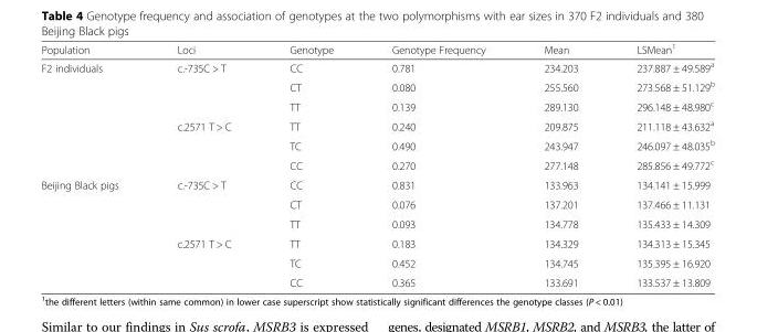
<table><thead><tr><td>Population</td><td>Loci</td><td>Genotype</td><td>Genotype Frequency</td><td>Mean</td><td>LSMean<sup>1</sup></td></tr></thead><tbody><tr><td rowspan="6">F2 individuals</td><td rowspan="3">c.-735C &gt; T</td><td>CC</td><td>0.781</td><td>234.203</td><td>237.887 ± 49.589<sup>a</sup></td></tr><tr><td>CT</td><td>0.080</td><td>255.560</td><td>273.568 ± 51.129<sup>b</sup></td></tr><tr><td>TT</td><td>0.139</td><td>289.130</td><td>296.148 ± 48.980<sup>c</sup></td></tr><tr><td rowspan="3">c.2571 T &gt; C</td><td>TT</td><td>0.240</td><td>209.875</td><td>211.118 ± 43.632<sup>a</sup></td></tr><tr><td>TC</td><td>0.490</td><td>243.947</td><td>246.097 ± 48.035<sup>b</sup></td></tr><tr><td>CC</td><td>0.270</td><td>277.148</td><td>285.856 ± 49.772<sup>c</sup></td></tr><tr><td rowspan="6">Beijing Black pigs</td><td rowspan="3">c.-735C &gt; T</td><td>CC</td><td>0.831</td><td>133.963</td><td>134.141 ± 15.999</td></tr><tr><td>CT</td><td>0.076</td><td>137.201</td><td>137.466 ± 11.131</td></tr><tr><td>TT</td><td>0.093</td><td>134.778</td><td>135.433 ± 14.309</td></tr><tr><td rowspan="3">c.2571 T &gt; C</td><td>TT</td><td>0.183</td><td>134.329</td><td>134.313 ± 15.345</td></tr><tr><td>TC</td><td>0.452</td><td>134.745</td><td>135.395 ± 16.920</td></tr><tr><td>CC</td><td>0.365</td><td>133.691</td><td>133.537 ± 13.809</td></tr></tbody></table>